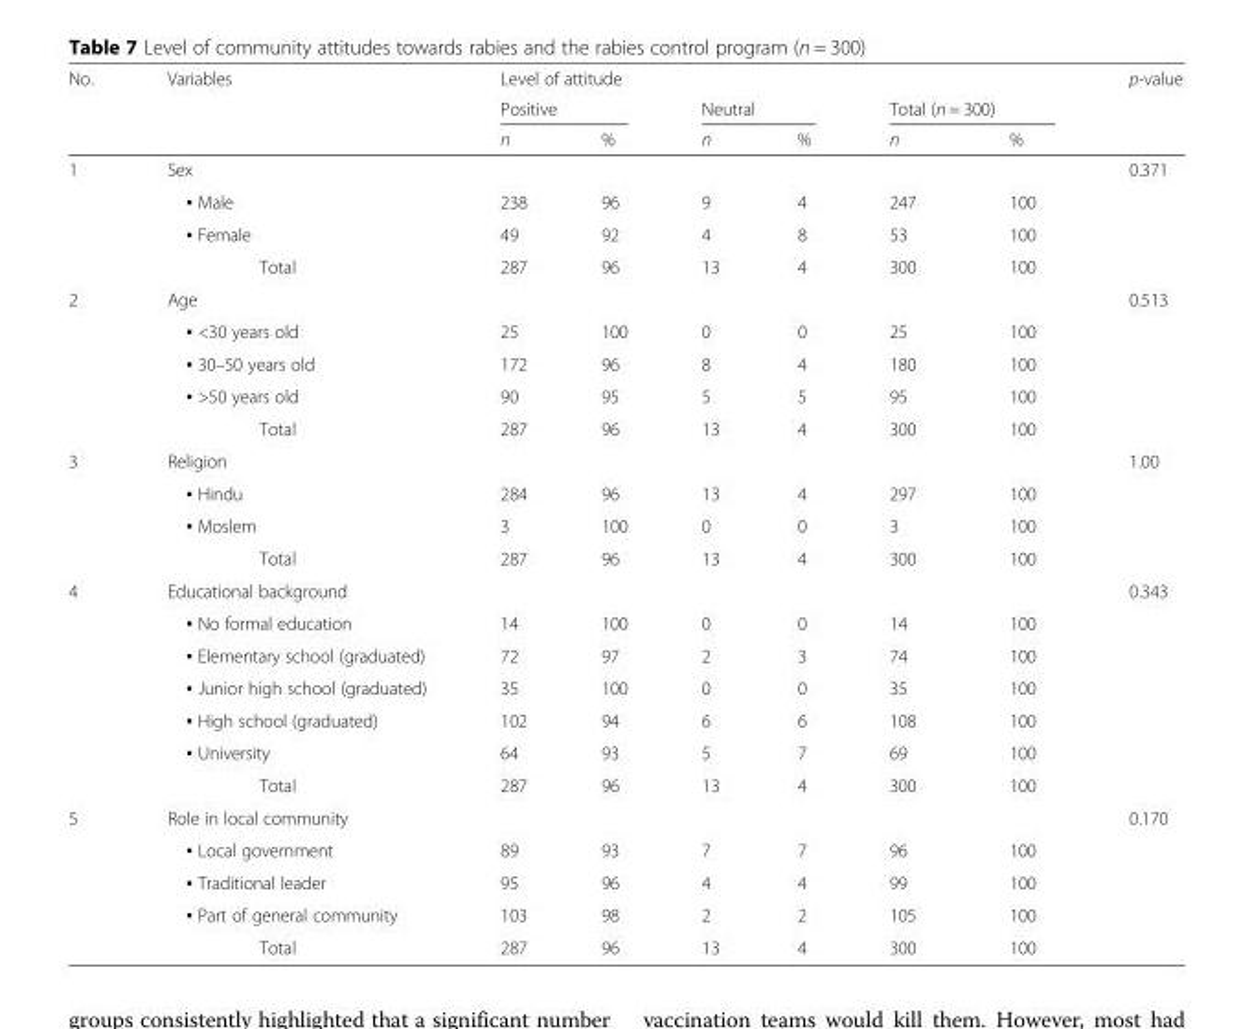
<table><thead><tr><td rowspan="3">No.</td><td rowspan="3">Variables</td><td colspan="6">Level of attitude</td><td rowspan="3">p-value</td></tr><tr><td colspan="2">Positive</td><td colspan="2">Neutral</td><td colspan="2">Total (n = 300)</td></tr><tr><td>n</td><td>%</td><td>n</td><td>%</td><td>n</td><td>%</td></tr></thead><tbody><tr><td rowspan="4">1</td><td colspan="7">Sex</td><td rowspan="4">0.371</td></tr><tr><td>▪ Male</td><td>238</td><td>96</td><td>9</td><td>4</td><td>247</td><td>100</td></tr><tr><td>▪ Female</td><td>49</td><td>92</td><td>4</td><td>8</td><td>53</td><td>100</td></tr><tr><td>Total</td><td>287</td><td>96</td><td>13</td><td>4</td><td>300</td><td>100</td></tr><tr><td rowspan="5">2</td><td colspan="7">Age</td><td rowspan="5">0.513</td></tr><tr><td>▪ &lt;30 years old</td><td>25</td><td>100</td><td>0</td><td>0</td><td>25</td><td>100</td></tr><tr><td>▪ 30–50 years old</td><td>172</td><td>96</td><td>8</td><td>4</td><td>180</td><td>100</td></tr><tr><td>▪ &gt;50 years old</td><td>90</td><td>95</td><td>5</td><td>5</td><td>95</td><td>100</td></tr><tr><td>Total</td><td>287</td><td>96</td><td>13</td><td>4</td><td>300</td><td>100</td></tr><tr><td rowspan="4">3</td><td colspan="7">Religion</td><td rowspan="4">1.00</td></tr><tr><td>▪ Hindu</td><td>284</td><td>96</td><td>13</td><td>4</td><td>297</td><td>100</td></tr><tr><td>▪ Moslem</td><td>3</td><td>100</td><td>0</td><td>0</td><td>3</td><td>100</td></tr><tr><td>Total</td><td>287</td><td>96</td><td>13</td><td>4</td><td>300</td><td>100</td></tr><tr><td rowspan="7">4</td><td colspan="7">Educational background</td><td rowspan="7">0.343</td></tr><tr><td>▪ No formal education</td><td>14</td><td>100</td><td>0</td><td>0</td><td>14</td><td>100</td></tr><tr><td>▪ Elementary school (graduated)</td><td>72</td><td>97</td><td>2</td><td>3</td><td>74</td><td>100</td></tr><tr><td>▪ Junior high school (graduated)</td><td>35</td><td>100</td><td>0</td><td>0</td><td>35</td><td>100</td></tr><tr><td>▪ High school (graduated)</td><td>102</td><td>94</td><td>6</td><td>6</td><td>108</td><td>100</td></tr><tr><td>▪ University</td><td>64</td><td>93</td><td>5</td><td>7</td><td>69</td><td>100</td></tr><tr><td>Total</td><td>287</td><td>96</td><td>13</td><td>4</td><td>300</td><td>100</td></tr><tr><td rowspan="5">5</td><td colspan="7">Role in local community</td><td rowspan="5">0.170</td></tr><tr><td>▪ Local government</td><td>89</td><td>93</td><td>7</td><td>7</td><td>96</td><td>100</td></tr><tr><td>▪ Traditional leader</td><td>95</td><td>96</td><td>4</td><td>4</td><td>99</td><td>100</td></tr><tr><td>▪ Part of general community</td><td>103</td><td>98</td><td>2</td><td>2</td><td>105</td><td>100</td></tr><tr><td>Total</td><td>287</td><td>96</td><td>13</td><td>4</td><td>300</td><td>100</td></tr></tbody></table>